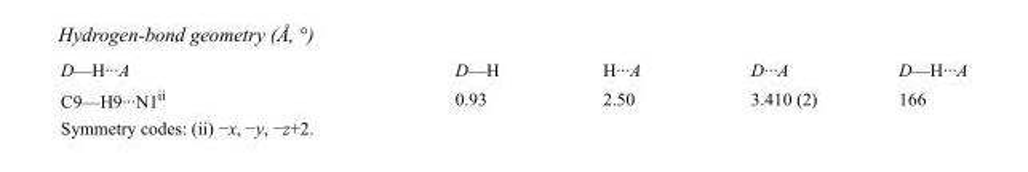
<table><tbody><tr><td>D—H···A</td><td>D—H</td><td>H···A</td><td>D···A</td><td>D—H···A</td></tr><tr><td>C9—H9···N1<sup>ii</sup></td><td>0.93</td><td>2.50</td><td>3.410 (2)</td><td>166</td></tr></tbody></table>